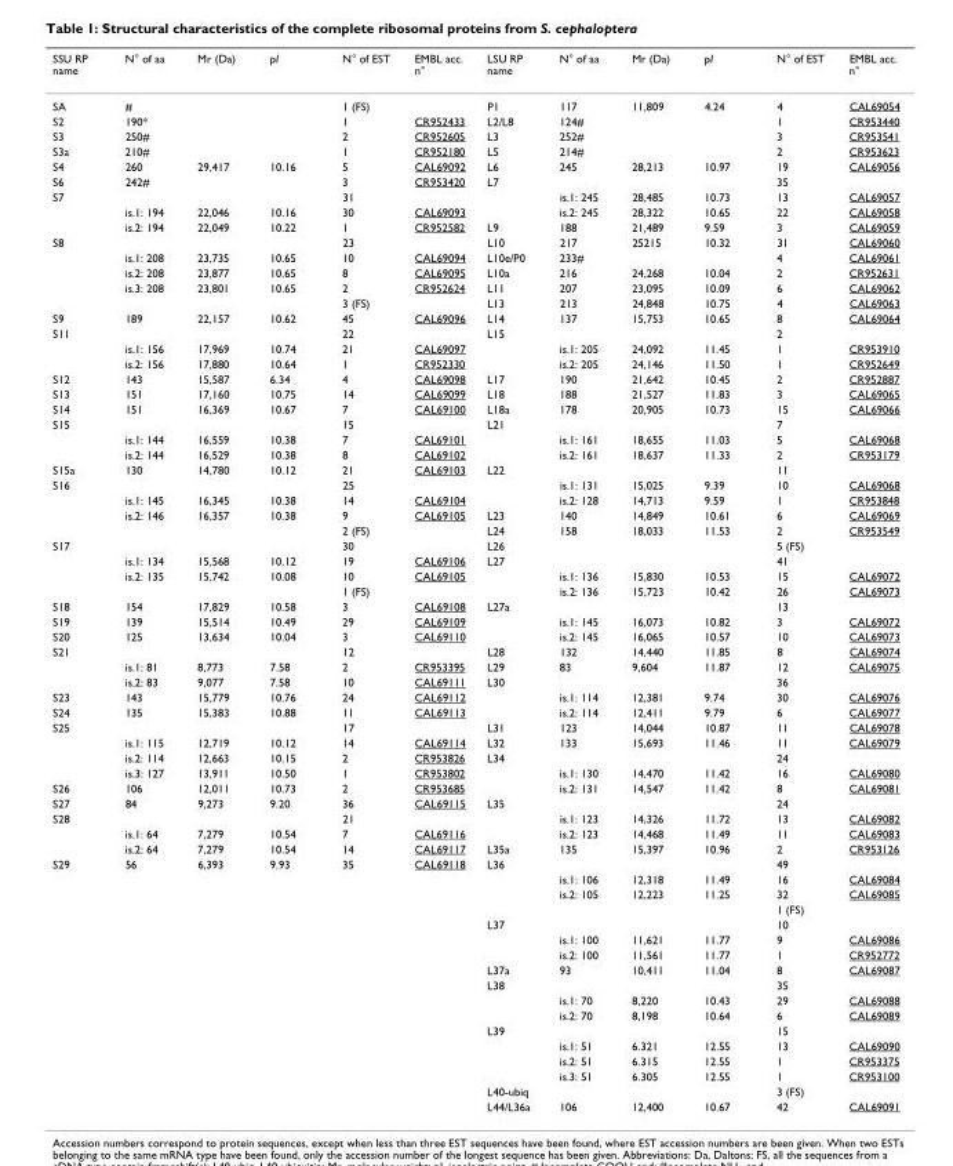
<table><thead><tr><td>SSU RP name</td><td>N° of aa</td><td>Mr (Da)</td><td>pI</td><td>N° of EST</td><td>EMBL acc. n°</td><td>LSU RP name</td><td>N° of aa</td><td>Mr (Da)</td><td>pI</td><td>N° of EST</td><td>EMBL acc. n°</td></tr></thead><tbody><tr><td>SA</td><td>#</td><td></td><td></td><td>1 (FS)</td><td></td><td>P1</td><td>117</td><td>11,809</td><td>4.24</td><td>4</td><td>CAL69054</td></tr><tr><td>S2</td><td>190*</td><td></td><td></td><td>1</td><td>CR952433</td><td>L2/L8</td><td>124#</td><td></td><td></td><td>1</td><td>CR953440</td></tr><tr><td>S3</td><td>250#</td><td></td><td></td><td>2</td><td>CR952605</td><td>L3</td><td>252#</td><td></td><td></td><td>3</td><td>CR953541</td></tr><tr><td>S3a</td><td>210#</td><td></td><td></td><td>1</td><td>CR952180</td><td>L5</td><td>214#</td><td></td><td></td><td>2</td><td>CR953623</td></tr><tr><td>S4</td><td>260</td><td>29,417</td><td>10.16</td><td>5</td><td>CAL69092</td><td>L6</td><td>245</td><td>28,213</td><td>10.97</td><td>19</td><td>CAL69056</td></tr><tr><td>S6</td><td>242#</td><td></td><td></td><td>3</td><td>CR953420</td><td>L7</td><td></td><td></td><td></td><td>35</td><td></td></tr><tr><td rowspan="3">S7</td><td></td><td></td><td></td><td>31</td><td></td><td></td><td>is.1: 245</td><td>28,485</td><td>10.73</td><td>13</td><td>CAL69057</td></tr><tr><td>is.1: 194</td><td>22,046</td><td>10.16</td><td>30</td><td>CAL69093</td><td></td><td>is.2: 245</td><td>28,322</td><td>10.65</td><td>22</td><td>CAL69058</td></tr><tr><td>is.2: 194</td><td>22,049</td><td>10.22</td><td>1</td><td>CR952582</td><td>L9</td><td>188</td><td>21,489</td><td>9.59</td><td>3</td><td>CAL69059</td></tr><tr><td rowspan="5">S8</td><td></td><td></td><td></td><td>23</td><td></td><td>L10</td><td>217</td><td>25215</td><td>10.32</td><td>31</td><td>CAL69060</td></tr><tr><td>is.1: 208</td><td>23,735</td><td>10.65</td><td>10</td><td>CAL69094</td><td>L10e/P0</td><td>233#</td><td></td><td></td><td>4</td><td>CAL69061</td></tr><tr><td>is.2: 208</td><td>23,877</td><td>10.65</td><td>8</td><td>CAL69095</td><td>L10a</td><td>216</td><td>24,268</td><td>10.04</td><td>2</td><td>CR952631</td></tr><tr><td>is.3: 208</td><td>23,801</td><td>10.65</td><td>2</td><td>CR952624</td><td>L11</td><td>207</td><td>23,095</td><td>10.09</td><td>6</td><td>CAL69062</td></tr><tr><td></td><td></td><td></td><td>3 (FS)</td><td></td><td>L13</td><td>213</td><td>24,848</td><td>10.75</td><td>4</td><td>CAL69063</td></tr><tr><td>S9</td><td>189</td><td>22,157</td><td>10.62</td><td>45</td><td>CAL69096</td><td>L14</td><td>137</td><td>15,753</td><td>10.65</td><td>8</td><td>CAL69064</td></tr><tr><td rowspan="3">S11</td><td></td><td></td><td></td><td>22</td><td></td><td>L15</td><td></td><td></td><td></td><td>2</td><td></td></tr><tr><td>is.1: 156</td><td>17,969</td><td>10.74</td><td>21</td><td>CAL69097</td><td></td><td>is.1: 205</td><td>24,092</td><td>11.45</td><td>1</td><td>CR953910</td></tr><tr><td>is.2: 156</td><td>17,880</td><td>10.64</td><td>1</td><td>CR952330</td><td></td><td>is.2: 205</td><td>24,146</td><td>11.50</td><td>1</td><td>CR952649</td></tr><tr><td>S12</td><td>143</td><td>15,587</td><td>6.34</td><td>4</td><td>CAL69098</td><td>L17</td><td>190</td><td>21,642</td><td>10.45</td><td>2</td><td>CR952887</td></tr><tr><td>S13</td><td>151</td><td>17,160</td><td>10.75</td><td>14</td><td>CAL69099</td><td>L18</td><td>188</td><td>21,527</td><td>11.83</td><td>3</td><td>CAL69065</td></tr><tr><td>S14</td><td>151</td><td>16,369</td><td>10.67</td><td>7</td><td>CAL69100</td><td>L18a</td><td>178</td><td>20,905</td><td>10.73</td><td>15</td><td>CAL69066</td></tr><tr><td rowspan="3">S15</td><td></td><td></td><td></td><td>15</td><td></td><td>L21</td><td></td><td></td><td></td><td>7</td><td></td></tr><tr><td>is.1: 144</td><td>16,559</td><td>10.38</td><td>7</td><td>CAL69101</td><td></td><td>is.1: 161</td><td>18,655</td><td>11.03</td><td>5</td><td>CAL69068</td></tr><tr><td>is.2: 144</td><td>16,529</td><td>10.38</td><td>8</td><td>CAL69102</td><td></td><td>is.2: 161</td><td>18,637</td><td>11.33</td><td>2</td><td>CR953179</td></tr><tr><td>S15a</td><td>130</td><td>14,780</td><td>10.12</td><td>21</td><td>CAL69103</td><td>L22</td><td></td><td></td><td></td><td>11</td><td></td></tr><tr><td rowspan="4">S16</td><td></td><td></td><td></td><td>25</td><td></td><td></td><td>is.1: 131</td><td>15,025</td><td>9.39</td><td>10</td><td>CAL69068</td></tr><tr><td>is.1: 145</td><td>16,345</td><td>10.38</td><td>14</td><td>CAL69104</td><td></td><td>is.2: 128</td><td>14,713</td><td>9.59</td><td>1</td><td>CR953848</td></tr><tr><td>is.2: 146</td><td>16,357</td><td>10.38</td><td>9</td><td>CAL69105</td><td>L23</td><td>140</td><td>14,849</td><td>10.61</td><td>6</td><td>CAL69069</td></tr><tr><td></td><td></td><td></td><td>2 (FS)</td><td></td><td>L24</td><td>158</td><td>18,033</td><td>11.53</td><td>2</td><td>CR953549</td></tr><tr><td rowspan="4">S17</td><td></td><td></td><td></td><td>30</td><td></td><td>L26</td><td></td><td></td><td></td><td>5 (FS)</td><td></td></tr><tr><td>is.1: 134</td><td>15,568</td><td>10.12</td><td>19</td><td>CAL69106</td><td>L27</td><td></td><td></td><td></td><td>41</td><td></td></tr><tr><td>is.2: 135</td><td>15,742</td><td>10.08</td><td>10</td><td>CAL69105</td><td></td><td>is.1: 136</td><td>15,830</td><td>10.53</td><td>15</td><td>CAL69072</td></tr><tr><td></td><td></td><td></td><td>1 (FS)</td><td></td><td></td><td>is.2: 136</td><td>15,723</td><td>10.42</td><td>26</td><td>CAL69073</td></tr><tr><td>S18</td><td>154</td><td>17,829</td><td>10.58</td><td>3</td><td>CAL69108</td><td>L27a</td><td></td><td></td><td></td><td>13</td><td></td></tr><tr><td>S19</td><td>139</td><td>15,514</td><td>10.49</td><td>29</td><td>CAL69109</td><td></td><td>is.1: 145</td><td>16,073</td><td>10.82</td><td>3</td><td>CAL69072</td></tr><tr><td>S20</td><td>125</td><td>13,634</td><td>10.04</td><td>3</td><td>CAL69110</td><td></td><td>is.2: 145</td><td>16,065</td><td>10.57</td><td>10</td><td>CAL69073</td></tr><tr><td rowspan="3">S21</td><td></td><td></td><td></td><td>12</td><td></td><td>L28</td><td>132</td><td>14,440</td><td>11.85</td><td>8</td><td>CAL69074</td></tr><tr><td>is.1: 81</td><td>8,773</td><td>7.58</td><td>2</td><td>CR953395</td><td>L29</td><td>83</td><td>9,604</td><td>11.87</td><td>12</td><td>CAL69075</td></tr><tr><td>is.2: 83</td><td>9,077</td><td>7.58</td><td>10</td><td>CAL69111</td><td>L30</td><td></td><td></td><td></td><td>36</td><td></td></tr><tr><td>S23</td><td>143</td><td>15,779</td><td>10.76</td><td>24</td><td>CAL69112</td><td></td><td>is.1: 114</td><td>12,381</td><td>9.74</td><td>30</td><td>CAL69076</td></tr><tr><td>S24</td><td>135</td><td>15,383</td><td>10.88</td><td>11</td><td>CAL69113</td><td></td><td>is.2: 114</td><td>12,411</td><td>9.79</td><td>6</td><td>CAL69077</td></tr><tr><td rowspan="4">S25</td><td></td><td></td><td></td><td>17</td><td></td><td>L31</td><td>123</td><td>14,044</td><td>10.87</td><td>11</td><td>CAL69078</td></tr><tr><td>is.1: 115</td><td>12,719</td><td>10.12</td><td>14</td><td>CAL69114</td><td>L32</td><td>133</td><td>15,693</td><td>11.46</td><td>11</td><td>CAL69079</td></tr><tr><td>is.2: 114</td><td>12,663</td><td>10.15</td><td>2</td><td>CR953826</td><td>L34</td><td></td><td></td><td></td><td>24</td><td></td></tr><tr><td>is.3: 127</td><td>13,911</td><td>10.50</td><td>1</td><td>CR953802</td><td></td><td>is.1: 130</td><td>14,470</td><td>11.42</td><td>16</td><td>CAL69080</td></tr><tr><td>S26</td><td>106</td><td>12,011</td><td>10.73</td><td>2</td><td>CR953685</td><td></td><td>is.2: 131</td><td>14,547</td><td>11.42</td><td>8</td><td>CAL69081</td></tr><tr><td>S27</td><td>84</td><td>9,273</td><td>9.20</td><td>36</td><td>CAL69115</td><td>L35</td><td></td><td></td><td></td><td>24</td><td></td></tr><tr><td rowspan="3">S28</td><td></td><td></td><td></td><td>21</td><td></td><td></td><td>is.1: 123</td><td>14,326</td><td>11.72</td><td>13</td><td>CAL69082</td></tr><tr><td>is.1: 64</td><td>7,279</td><td>10.54</td><td>7</td><td>CAL69116</td><td></td><td>is.2: 123</td><td>14,468</td><td>11.49</td><td>11</td><td>CAL69083</td></tr><tr><td>is.2: 64</td><td>7,279</td><td>10.54</td><td>14</td><td>CAL69117</td><td>L35a</td><td>135</td><td>15,397</td><td>10.96</td><td>2</td><td>CR953126</td></tr><tr><td rowspan="17">S29</td><td>56</td><td>6,393</td><td>9.93</td><td>35</td><td>CAL69118</td><td>L36</td><td></td><td></td><td></td><td>49</td><td></td></tr><tr><td></td><td></td><td></td><td></td><td></td><td></td><td>is.1: 106</td><td>12,318</td><td>11.49</td><td>16</td><td>CAL69084</td></tr><tr><td></td><td></td><td></td><td></td><td></td><td></td><td>is.2: 105</td><td>12,223</td><td>11.25</td><td>32</td><td>CAL69085</td></tr><tr><td></td><td></td><td></td><td></td><td></td><td></td><td></td><td></td><td></td><td>1 (FS)</td><td></td></tr><tr><td></td><td></td><td></td><td></td><td></td><td>L37</td><td></td><td></td><td></td><td>10</td><td></td></tr><tr><td></td><td></td><td></td><td></td><td></td><td></td><td>is.1: 100</td><td>11,621</td><td>11.77</td><td>9</td><td>CAL69086</td></tr><tr><td></td><td></td><td></td><td></td><td></td><td></td><td>is.2: 100</td><td>11,561</td><td>11.77</td><td>1</td><td>CR952772</td></tr><tr><td></td><td></td><td></td><td></td><td></td><td>L37a</td><td>93</td><td>10,411</td><td>11.04</td><td>8</td><td>CAL69087</td></tr><tr><td></td><td></td><td></td><td></td><td></td><td>L38</td><td></td><td></td><td></td><td>35</td><td></td></tr><tr><td></td><td></td><td></td><td></td><td></td><td></td><td>is.1: 70</td><td>8,220</td><td>10.43</td><td>29</td><td>CAL69088</td></tr><tr><td></td><td></td><td></td><td></td><td></td><td></td><td>is.2: 70</td><td>8,198</td><td>10.64</td><td>6</td><td>CAL69089</td></tr><tr><td></td><td></td><td></td><td></td><td></td><td>L39</td><td></td><td></td><td></td><td>15</td><td></td></tr><tr><td></td><td></td><td></td><td></td><td></td><td></td><td>is.1: 51</td><td>6.321</td><td>12.55</td><td>13</td><td>CAL69090</td></tr><tr><td></td><td></td><td></td><td></td><td></td><td></td><td>is.2: 51</td><td>6.315</td><td>12.55</td><td>1</td><td>CR953375</td></tr><tr><td></td><td></td><td></td><td></td><td></td><td></td><td>is.3: 51</td><td>6.305</td><td>12.55</td><td>1</td><td>CR953100</td></tr><tr><td></td><td></td><td></td><td></td><td></td><td>L40-ubiq</td><td></td><td></td><td></td><td>3 (FS)</td><td></td></tr><tr><td></td><td></td><td></td><td></td><td></td><td>L44/L36a</td><td>106</td><td>12,400</td><td>10.67</td><td>42</td><td>CAL69091</td></tr></tbody></table>